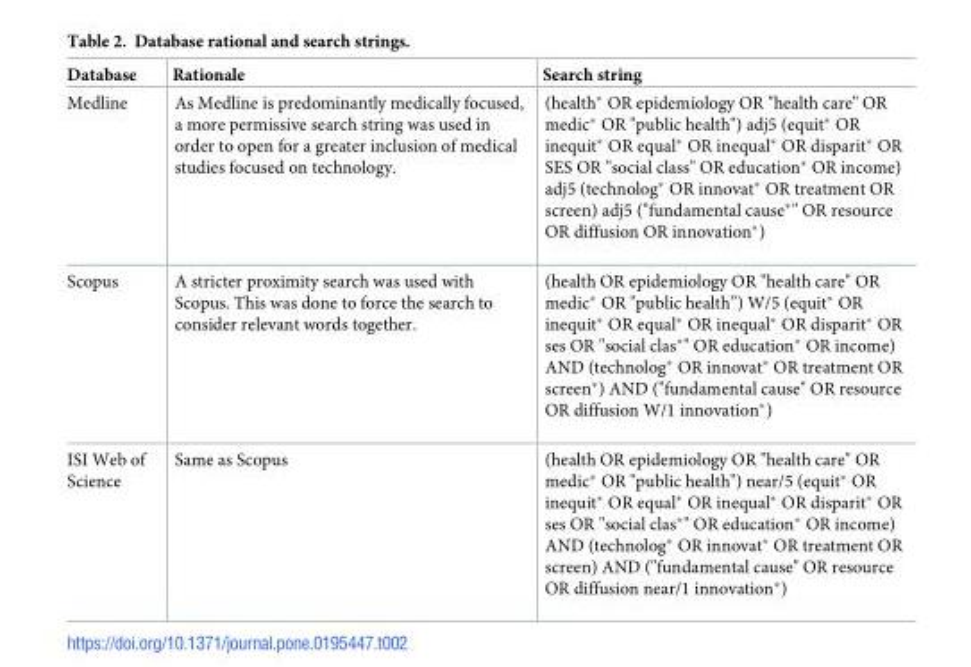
<table><thead><tr><td>Database</td><td>Rationale</td><td>Search string</td></tr></thead><tbody><tr><td>Medline</td><td>As Medline is predominantly medically focused, a more permissive search string was used in order to open for a greater inclusion of medical studies focused on technology.</td><td>(health* OR epidemiology OR &quot;health care&quot; OR medic* OR &quot;public health&quot;) adj5 (equit* OR inequit* OR equal* OR inequal* OR disparit* OR SES OR &quot;social class&quot; OR education* OR income) adj5 (technolog* OR innovat* OR treatment OR screen) adj5 (&quot;fundamental cause*&quot; OR resource OR diffusion OR innovation*)</td></tr><tr><td>Scopus</td><td>A stricter proximity search was used with Scopus. This was done to force the search to consider relevant words together.</td><td>(health OR epidemiology OR &quot;health care&quot; OR medic* OR &quot;public health”) W/5 (equit* OR inequit* OR equal* OR inequal* OR disparit* OR ses OR &quot;social clas*&quot; OR education* OR income) AND (technolog* OR innovat* OR treatment OR screen*) AND (&quot;fundamental cause&quot; OR resource OR diffusion W/1 innovation*)</td></tr><tr><td>ISI Web of Science</td><td>Same as Scopus</td><td>(health OR epidemiology OR &quot;health care&quot; OR medic* OR &quot;public health&quot;) near/5 (equit* OR inequit* OR equal* OR inequal* OR disparit* OR ses OR &quot;social clas*&quot; OR education* OR income) AND (technolog* OR innovat* OR treatment OR screen) AND (&quot;fundamental cause&quot; OR resource OR diffusion near/1 innovation*)</td></tr></tbody></table>